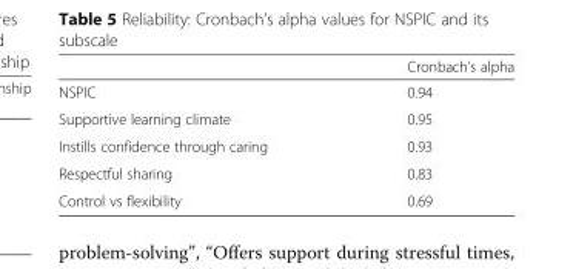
<table><thead><tr><td></td><td>Cronbach’s alpha</td></tr></thead><tbody><tr><td>NSPIC</td><td>0.94</td></tr><tr><td>Supportive learning climate</td><td>0.95</td></tr><tr><td>Instills confidence through caring</td><td>0.93</td></tr><tr><td>Respectful sharing</td><td>0.83</td></tr><tr><td>Control vs flexibility</td><td>0.69</td></tr></tbody></table>